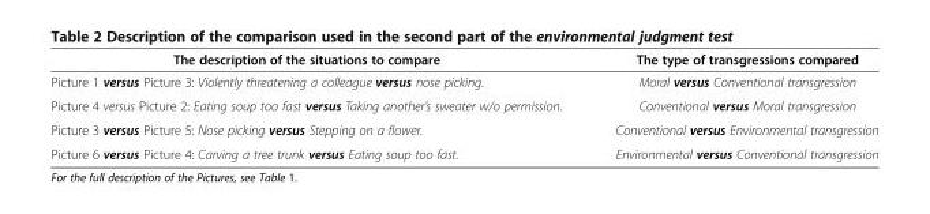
<table><thead><tr><td>The description of the situations to compare</td><td>The type of transgressions compared</td></tr></thead><tbody><tr><td>Picture 1 versus Picture 3: Violently threatening a colleague versus nose picking.</td><td>Moral versus Conventional transgression</td></tr><tr><td>Picture 4 versus Picture 2: Eating soup too fast versus Taking another’s sweater w/o permission.</td><td>Conventional versus Moral transgression</td></tr><tr><td>Picture 3 versus Picture 5: Nose picking versus Stepping on a flower.</td><td>Conventional versus Environmental transgression</td></tr><tr><td>Picture 6 versus Picture 4: Carving a tree trunk versus Eating soup too fast.</td><td>Environmental versus Conventional transgression</td></tr></tbody></table>